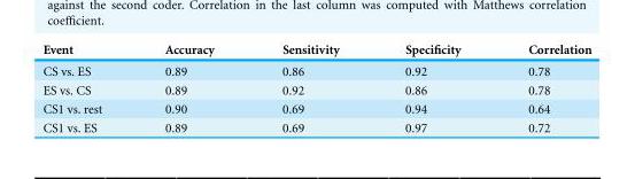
<table><thead><tr><td>Event</td><td>Accuracy</td><td>Sensitivity</td><td>Specificity</td><td>Correlation</td></tr></thead><tbody><tr><td>CS vs. ES</td><td>0.89</td><td>0.86</td><td>0.92</td><td>0.78</td></tr><tr><td>ES vs. CS</td><td>0.89</td><td>0.92</td><td>0.86</td><td>0.78</td></tr><tr><td>CS1 vs. rest</td><td>0.90</td><td>0.69</td><td>0.94</td><td>0.64</td></tr><tr><td>CS1 vs. ES</td><td>0.89</td><td>0.69</td><td>0.97</td><td>0.72</td></tr></tbody></table>